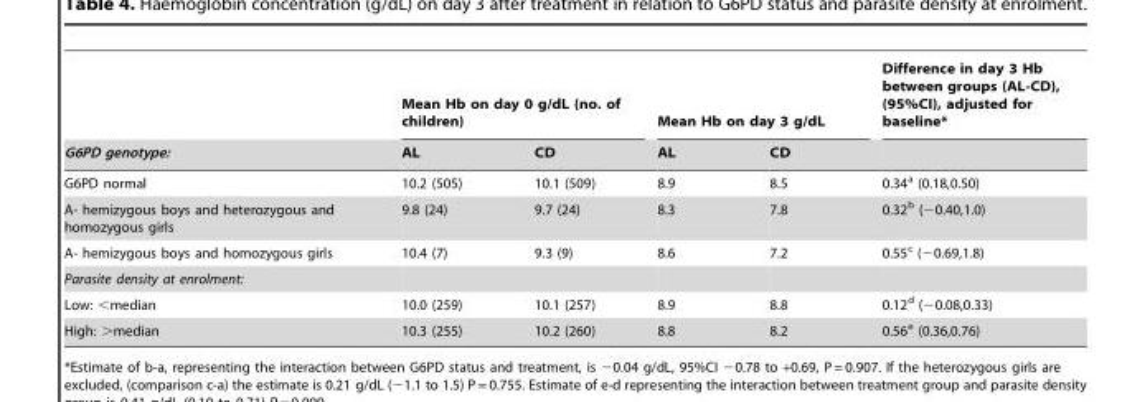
<table><thead><tr><td rowspan="2">G6PD genotype:</td><td colspan="2">Mean Hb on day 0 g/dL (no. of children)</td><td colspan="2">Mean Hb on day 3 g/dL</td><td rowspan="2">Difference in day 3 Hb between groups (AL-CD), (95%CI), adjusted for baseline*</td></tr><tr><td>AL</td><td>CD</td><td>AL</td><td>CD</td></tr></thead><tbody><tr><td>G6PD normal</td><td>10.2 (505)</td><td>10.1 (509)</td><td>8.9</td><td>8.5</td><td>0.34<sup>a</sup> (0.18,0.50)</td></tr><tr><td>A- hemizygous boys and heterozygous and homozygous girls</td><td>9.8 (24)</td><td>9.7 (24)</td><td>8.3</td><td>7.8</td><td>0.32<sup>b</sup> (−0.40,1.0)</td></tr><tr><td>A- hemizygous boys and homozygous girls</td><td>10.4 (7)</td><td>9.3 (9)</td><td>8.6</td><td>7.2</td><td>0.55<sup>c</sup> (−0.69,1.8)</td></tr><tr><td colspan="6">Parasite density at enrolment:</td></tr><tr><td>Low: &lt;median</td><td>10.0 (259)</td><td>10.1 (257)</td><td>8.9</td><td>8.8</td><td>0.12<sup>d</sup> (−0.08,0.33)</td></tr><tr><td>High: &gt;median</td><td>10.3 (255)</td><td>10.2 (260)</td><td>8.8</td><td>8.2</td><td>0.56<sup>e</sup> (0.36,0.76)</td></tr></tbody></table>